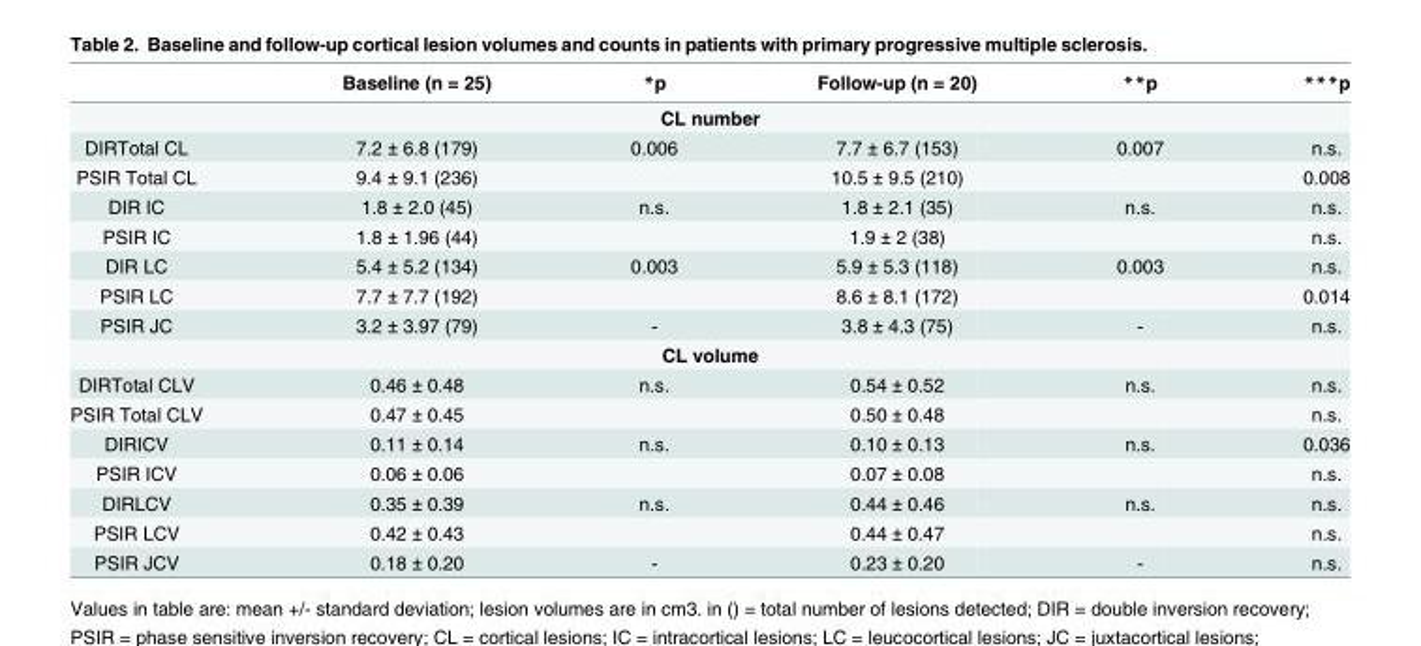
<table><thead><tr><td></td><td>Baseline (n = 25)</td><td>*p</td><td>Follow-up (n = 20)</td><td>**p</td><td>***p</td></tr></thead><tbody><tr><td colspan="6">CL number</td></tr><tr><td>DIRTotal CL</td><td>7.2 ± 6.8 (179)</td><td>0.006</td><td>7.7 ± 6.7 (153)</td><td>0.007</td><td>n.s.</td></tr><tr><td>PSIR Total CL</td><td>9.4 ± 9.1 (236)</td><td></td><td>10.5 ± 9.5 (210)</td><td></td><td>0.008</td></tr><tr><td>DIR IC</td><td>1.8 ± 2.0 (45)</td><td>n.s.</td><td>1.8 ± 2.1 (35)</td><td>n.s.</td><td>n.s.</td></tr><tr><td>PSIR IC</td><td>1.8 ± 1.96 (44)</td><td></td><td>1.9 ± 2 (38)</td><td></td><td>n.s.</td></tr><tr><td>DIR LC</td><td>5.4 ± 5.2 (134)</td><td>0.003</td><td>5.9 ± 5.3 (118)</td><td>0.003</td><td>n.s.</td></tr><tr><td>PSIR LC</td><td>7.7 ± 7.7 (192)</td><td></td><td>8.6 ± 8.1 (172)</td><td></td><td>0.014</td></tr><tr><td>PSIR JC</td><td>3.2 ± 3.97 (79)</td><td>-</td><td>3.8 ± 4.3 (75)</td><td>-</td><td>n.s.</td></tr><tr><td colspan="6">CL volume</td></tr><tr><td>DIRTotal CLV</td><td>0.46 ± 0.48</td><td>n.s.</td><td>0.54 ± 0.52</td><td>n.s.</td><td>n.s.</td></tr><tr><td>PSIR Total CLV</td><td>0.47 ± 0.45</td><td></td><td>0.50 ± 0.48</td><td></td><td>n.s.</td></tr><tr><td>DIRICV</td><td>0.11 ± 0.14</td><td>n.s.</td><td>0.10 ± 0.13</td><td>n.s.</td><td>0.036</td></tr><tr><td>PSIR ICV</td><td>0.06 ± 0.06</td><td></td><td>0.07 ± 0.08</td><td></td><td>n.s.</td></tr><tr><td>DIRLCV</td><td>0.35 ± 0.39</td><td>n.s.</td><td>0.44 ± 0.46</td><td>n.s.</td><td>n.s.</td></tr><tr><td>PSIR LCV</td><td>0.42 ± 0.43</td><td></td><td>0.44 ± 0.47</td><td></td><td>n.s.</td></tr><tr><td>PSIR JCV</td><td>0.18 ± 0.20</td><td>-</td><td>0.23 ± 0.20</td><td>-</td><td>n.s.</td></tr></tbody></table>